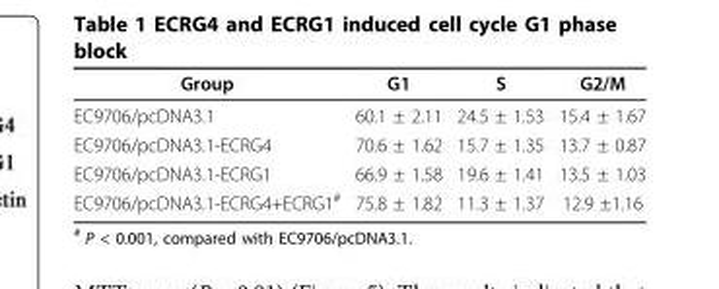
<table><thead><tr><td>Group</td><td>G1</td><td>S</td><td>G2/M</td></tr></thead><tbody><tr><td>EC9706/pcDNA3.1</td><td>60.1 ± 2.11</td><td>24.5 ± 1.53</td><td>15.4 ± 1.67</td></tr><tr><td>EC9706/pcDNA3.1-ECRG4</td><td>70.6 ± 1.62</td><td>15.7 ± 1.35</td><td>13.7 ± 0.87</td></tr><tr><td>EC9706/pcDNA3.1-ECRG1</td><td>66.9 ± 1.58</td><td>19.6 ± 1.41</td><td>13.5 ± 1.03</td></tr><tr><td>EC9706/pcDNA3.1-ECRG4+ECRG1<sup>#</sup></td><td>75.8 ± 1.82</td><td>11.3 ± 1.37</td><td>12.9 ±1.16</td></tr></tbody></table>